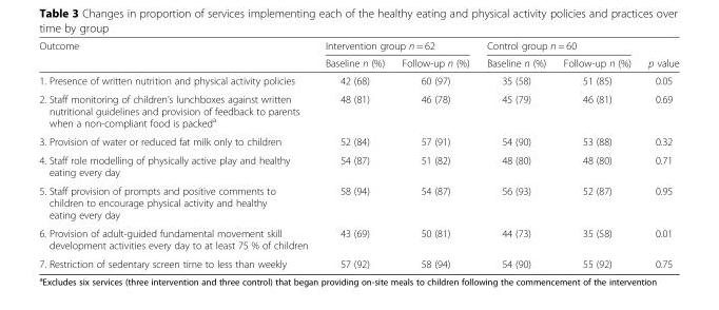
<table><thead><tr><td rowspan="2">Outcome</td><td colspan="2">Intervention group n = 62</td><td colspan="2">Control group n = 60</td><td rowspan="2">p value</td></tr><tr><td>Baseline n (%)</td><td>Follow-up n (%)</td><td>Baseline n (%)</td><td>Follow-up n (%)</td></tr></thead><tbody><tr><td>1. Presence of written nutrition and physical activity policies</td><td>42 (68)</td><td>60 (97)</td><td>35 (58)</td><td>51 (85)</td><td>0.05</td></tr><tr><td>2. Staff monitoring of children’s lunchboxes against written nutritional guidelines and provision of feedback to parents when a non-compliant food is packed<sup>a</sup></td><td>48 (81)</td><td>46 (78)</td><td>45 (79)</td><td>46 (81)</td><td>0.69</td></tr><tr><td>3. Provision of water or reduced fat milk only to children</td><td>52 (84)</td><td>57 (91)</td><td>54 (90)</td><td>53 (88)</td><td>0.32</td></tr><tr><td>4. Staff role modelling of physically active play and healthy eating every day</td><td>54 (87)</td><td>51 (82)</td><td>48 (80)</td><td>48 (80)</td><td>0.71</td></tr><tr><td>5. Staff provision of prompts and positive comments to children to encourage physical activity and healthy eating every day</td><td>58 (94)</td><td>54 (87)</td><td>56 (93)</td><td>52 (87)</td><td>0.95</td></tr><tr><td>6. Provision of adult-guided fundamental movement skill development activities every day to at least 75 % of children</td><td>43 (69)</td><td>50 (81)</td><td>44 (73)</td><td>35 (58)</td><td>0.01</td></tr><tr><td>7. Restriction of sedentary screen time to less than weekly</td><td>57 (92)</td><td>58 (94)</td><td>54 (90)</td><td>55 (92)</td><td>0.75</td></tr></tbody></table>